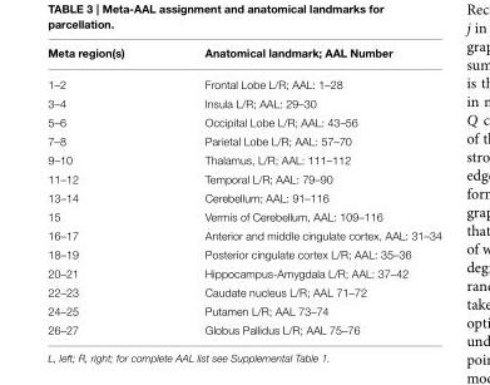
<table><thead><tr><td>Meta region(s)</td><td>Anatomical landmark; AAL Number</td></tr></thead><tbody><tr><td>1–2</td><td>Frontal Lobe L/R; AAL: 1–28</td></tr><tr><td>3–4</td><td>Insula L/R; AAL: 29–30</td></tr><tr><td>5–6</td><td>Occipital Lobe L/R; AAL: 43–56</td></tr><tr><td>7–8</td><td>Parietal Lobe L/R; AAL: 57–70</td></tr><tr><td>9–10</td><td>Thalamus, L/R; AAL: 111–112</td></tr><tr><td>11–12</td><td>Temporal L/R; AAL: 79–90</td></tr><tr><td>13–14</td><td>Cerebellum; AAL: 91–116</td></tr><tr><td>15</td><td>Vermis of Cerebellum, AAL: 109–116</td></tr><tr><td>16–17</td><td>Anterior and middle cingulate cortex, AAL: 31–34</td></tr><tr><td>18–19</td><td>Posterior cingulate cortex L/R; AAL: 35–36</td></tr><tr><td>20–21</td><td>Hippocampus-Amygdala L/R; AAL: 37–42</td></tr><tr><td>22–23</td><td>Caudate nucleus L/R; AAL 71–72</td></tr><tr><td>24–25</td><td>Putamen L/R; AAL 73–74</td></tr><tr><td>26–27</td><td>Globus Pallidus L/R; AAL 75–76</td></tr></tbody></table>